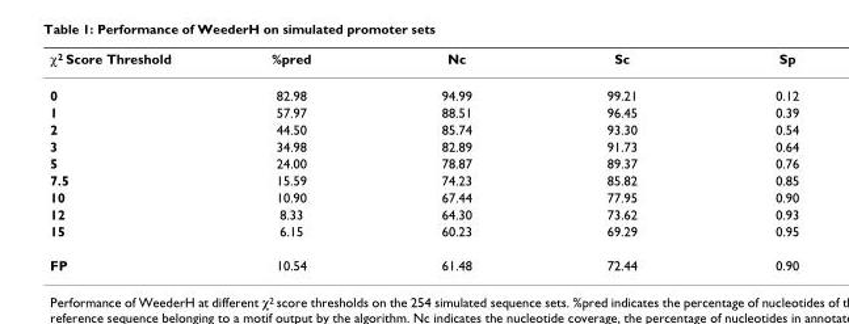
<table><thead><tr><td>χ2 Score Threshold</td><td>%pred</td><td>Nc</td><td>Sc</td><td>Sp</td></tr></thead><tbody><tr><td>0</td><td>82.98</td><td>94.99</td><td>99.21</td><td>0.12</td></tr><tr><td>1</td><td>57.97</td><td>88.51</td><td>96.45</td><td>0.39</td></tr><tr><td>2</td><td>44.50</td><td>85.74</td><td>93.30</td><td>0.54</td></tr><tr><td>3</td><td>34.98</td><td>82.89</td><td>91.73</td><td>0.64</td></tr><tr><td>5</td><td>24.00</td><td>78.87</td><td>89.37</td><td>0.76</td></tr><tr><td>7.5</td><td>15.59</td><td>74.23</td><td>85.82</td><td>0.85</td></tr><tr><td>10</td><td>10.90</td><td>67.44</td><td>77.95</td><td>0.90</td></tr><tr><td>12</td><td>8.33</td><td>64.30</td><td>73.62</td><td>0.93</td></tr><tr><td>15</td><td>6.15</td><td>60.23</td><td>69.29</td><td>0.95</td></tr><tr><td>FP</td><td>10.54</td><td>61.48</td><td>72.44</td><td>0.90</td></tr></tbody></table>